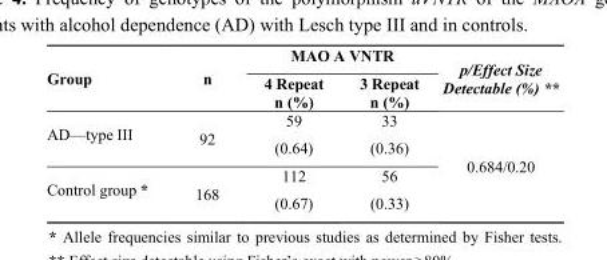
<table><thead><tr><td rowspan="2">Group</td><td rowspan="2">n</td><td colspan="2">MAO A VNTR</td><td rowspan="2">p/Effect Size Detectable (%) **</td></tr><tr><td>4 Repeat n (%)</td><td>3 Repeat n (%)</td></tr></thead><tbody><tr><td>AD—type III</td><td>92</td><td>59 (0.64)</td><td>33 (0.36)</td><td rowspan="2">0.684/0.20</td></tr><tr><td>Control group *</td><td>168</td><td>112 (0.67)</td><td>56 (0.33)</td></tr></tbody></table>